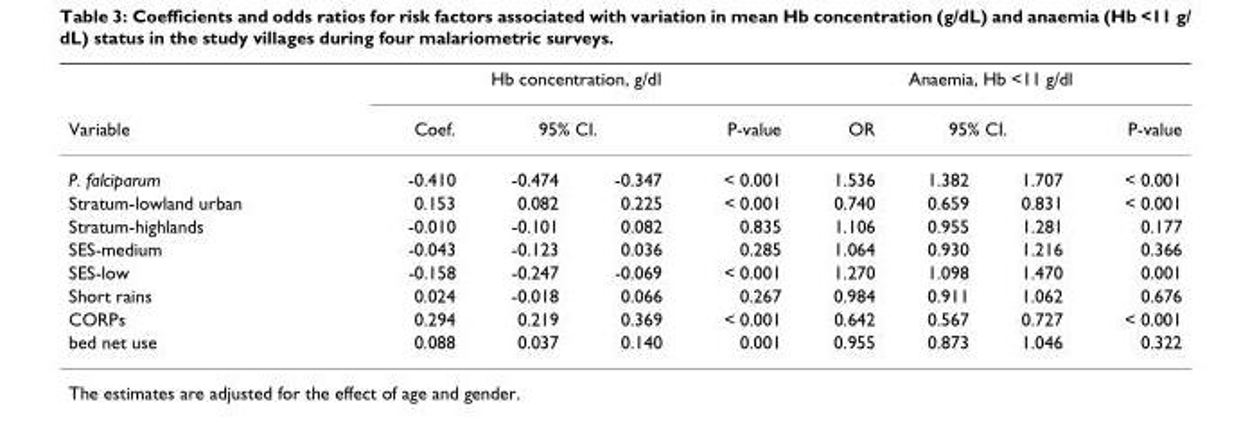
<table><thead><tr><td rowspan="3">Variable P. falciparum</td><td colspan="4">Hb concentration, g/dl</td><td colspan="4">Anaemia, Hb &lt;11 g/dl</td></tr><tr><td rowspan="2">Coef. -0.410</td><td colspan="2">95% CI.</td><td rowspan="2">P-value &lt; 0.001</td><td rowspan="2">OR 1.536</td><td colspan="2">95% CI.</td><td rowspan="2">P-value &lt; 0.001</td></tr><tr><td>-0.474</td><td>-0.347</td><td>1.382</td><td>1.707</td></tr></thead><tbody><tr><td>Stratum-lowland urban</td><td>0.153</td><td>0.082</td><td>0.225</td><td>&lt; 0.001</td><td>0.740</td><td>0.659</td><td>0.831</td><td>&lt; 0.001</td></tr><tr><td>Stratum-highlands</td><td>-0.010</td><td>-0.101</td><td>0.082</td><td>0.835</td><td>1.106</td><td>0.955</td><td>1.281</td><td>0.177</td></tr><tr><td>SES-medium</td><td>-0.043</td><td>-0.123</td><td>0.036</td><td>0.285</td><td>1.064</td><td>0.930</td><td>1.216</td><td>0.366</td></tr><tr><td>SES-low</td><td>-0.158</td><td>-0.247</td><td>-0.069</td><td>&lt; 0.001</td><td>1.270</td><td>1.098</td><td>1.470</td><td>0.001</td></tr><tr><td>Short rains</td><td>0.024</td><td>-0.018</td><td>0.066</td><td>0.267</td><td>0.984</td><td>0.911</td><td>1.062</td><td>0.676</td></tr><tr><td>CORPs</td><td>0.294</td><td>0.219</td><td>0.369</td><td>&lt; 0.001</td><td>0.642</td><td>0.567</td><td>0.727</td><td>&lt; 0.001</td></tr><tr><td>bed net use</td><td>0.088</td><td>0.037</td><td>0.140</td><td>0.001</td><td>0.955</td><td>0.873</td><td>1.046</td><td>0.322</td></tr></tbody></table>